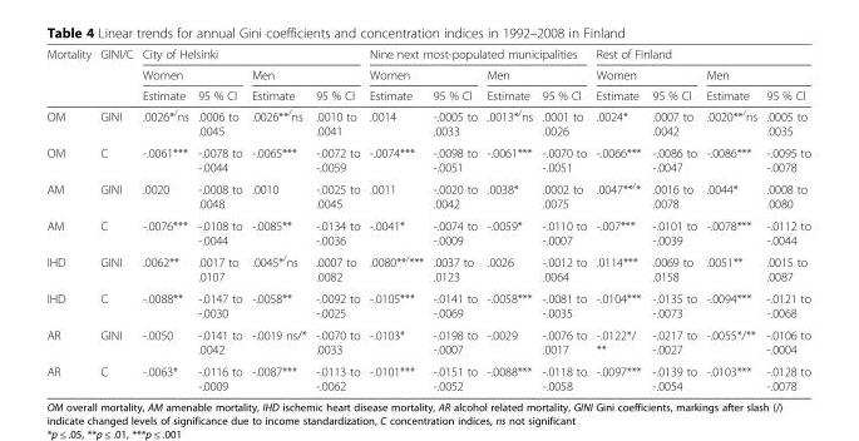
<table><thead><tr><td rowspan="3">Mortality</td><td rowspan="3">GINI/C</td><td colspan="4">City of Helsinki</td><td colspan="4">Nine next most-populated municipalities</td><td colspan="4">Rest of Finland</td></tr><tr><td colspan="2">Women</td><td colspan="2">Men</td><td colspan="2">Women</td><td colspan="2">Men</td><td colspan="2">Women</td><td colspan="2">Men</td></tr><tr><td>Estimate</td><td>95 % Cl</td><td>Estimate</td><td>95 % Cl</td><td>Estimate</td><td>95 % Cl</td><td>Estimate</td><td>95 % Cl</td><td>Estimate</td><td>95 % Cl</td><td>Estimate</td><td>95 % Cl</td></tr></thead><tbody><tr><td>OM</td><td>GINI</td><td>.0026*<sup>/</sup>ns</td><td>.0006 to .0045</td><td>.0026**<sup>/</sup>ns</td><td>.0010 to .0041</td><td>.0014</td><td>-.0005 to .0033</td><td>.0013*<sup>/</sup>ns</td><td>.0001 to .0026</td><td>.0024*</td><td>.0007 to .0042</td><td>.0020**<sup>/</sup>ns</td><td>.0005 to .0035</td></tr><tr><td>OM</td><td>C</td><td>-.0061***</td><td>-.0078 to -.0044</td><td>-.0065***</td><td>-.0072 to -.0059</td><td>-.0074***</td><td>-.0098 to -.0051</td><td>-.0061***</td><td>-.0070 to -.0051</td><td>-.0066***</td><td>-.0086 to -.0047</td><td>-.0086***</td><td>-.0095 to -.0078</td></tr><tr><td>AM</td><td>GINI</td><td>.0020</td><td>-.0008 to .0048</td><td>.0010</td><td>-.0025 to .0045</td><td>.0011</td><td>-.0020 to .0042</td><td>.0038*</td><td>.0002 to .0075</td><td>.0047**<sup>/</sup>*</td><td>.0016 to .0078</td><td>.0044*</td><td>.0008 to .0080</td></tr><tr><td>AM</td><td>C</td><td>-.0076***</td><td>-.0108 to -.0044</td><td>-.0085**</td><td>-.0134 to -.0036</td><td>-.0041*</td><td>-.0074 to -.0009</td><td>-.0059*</td><td>-.0110 to -.0007</td><td>-.007***</td><td>-.0101 to -.0039</td><td>-.0078***</td><td>-.0112 to -.0044</td></tr><tr><td>IHD</td><td>GINI</td><td>.0062**</td><td>.0017 to .0107</td><td>.0045*<sup>/</sup>ns</td><td>.0007 to .0082</td><td>.0080**<sup>/</sup>***</td><td>.0037 to .0123</td><td>.0026</td><td>-.0012 to .0064</td><td>.0114***</td><td>.0069 to .0158</td><td>.0051**</td><td>.0015 to .0087</td></tr><tr><td>IHD</td><td>C</td><td>-.0088**</td><td>-.0147 to -.0030</td><td>-.0058**</td><td>-.0092 to -.0025</td><td>-.0105***</td><td>-.0141 to -.0069</td><td>-.0058***</td><td>-.0081 to -.0035</td><td>-.0104***</td><td>-.0135 to -.0073</td><td>-.0094***</td><td>-.0121 to -.0068</td></tr><tr><td>AR</td><td>GINI</td><td>-.0050</td><td>-.0141 to .0042</td><td>-.0019 ns/*</td><td>-.0070 to .0033</td><td>-.0103*</td><td>-.0198 to -.0007</td><td>-.0029</td><td>-.0076 to .0017</td><td>-.0122*/ **</td><td>-.0217 to -.0027</td><td>-.0055*/**</td><td>-.0106 to -.0004</td></tr><tr><td>AR</td><td>C</td><td>-.0063*</td><td>-.0116 to -.0009</td><td>-.0087***</td><td>-.0113 to -.0062</td><td>-.0101***</td><td>-.0151 to -.0052</td><td>-.0088***</td><td>-.0118 to -.0058</td><td>-.0097***</td><td>-.0139 to -.0054</td><td>-.0103***</td><td>-.0128 to -.0078</td></tr></tbody></table>